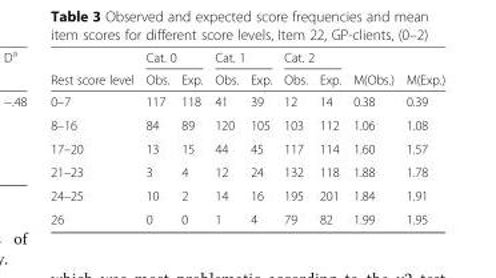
<table><thead><tr><td rowspan="2">Rest score level</td><td colspan="2">Cat. 0</td><td colspan="2">Cat. 1</td><td colspan="2">Cat. 2</td><td rowspan="2">M(Obs.)</td><td rowspan="2">M(Exp.)</td></tr><tr><td>Obs.</td><td>Exp.</td><td>Obs.</td><td>Exp.</td><td>Obs.</td><td>Exp.</td></tr></thead><tbody><tr><td>0–7</td><td>117</td><td>118</td><td>41</td><td>39</td><td>12</td><td>14</td><td>0.38</td><td>0.39</td></tr><tr><td>8–16</td><td>84</td><td>89</td><td>120</td><td>105</td><td>103</td><td>112</td><td>1.06</td><td>1.08</td></tr><tr><td>17–20</td><td>13</td><td>15</td><td>44</td><td>45</td><td>117</td><td>114</td><td>1.60</td><td>1.57</td></tr><tr><td>21–23</td><td>3</td><td>4</td><td>12</td><td>24</td><td>132</td><td>118</td><td>1.88</td><td>1.78</td></tr><tr><td>24–25</td><td>10</td><td>2</td><td>14</td><td>16</td><td>195</td><td>201</td><td>1.84</td><td>1.91</td></tr><tr><td>26</td><td>0</td><td>0</td><td>1</td><td>4</td><td>79</td><td>82</td><td>1.99</td><td>1.95</td></tr></tbody></table>